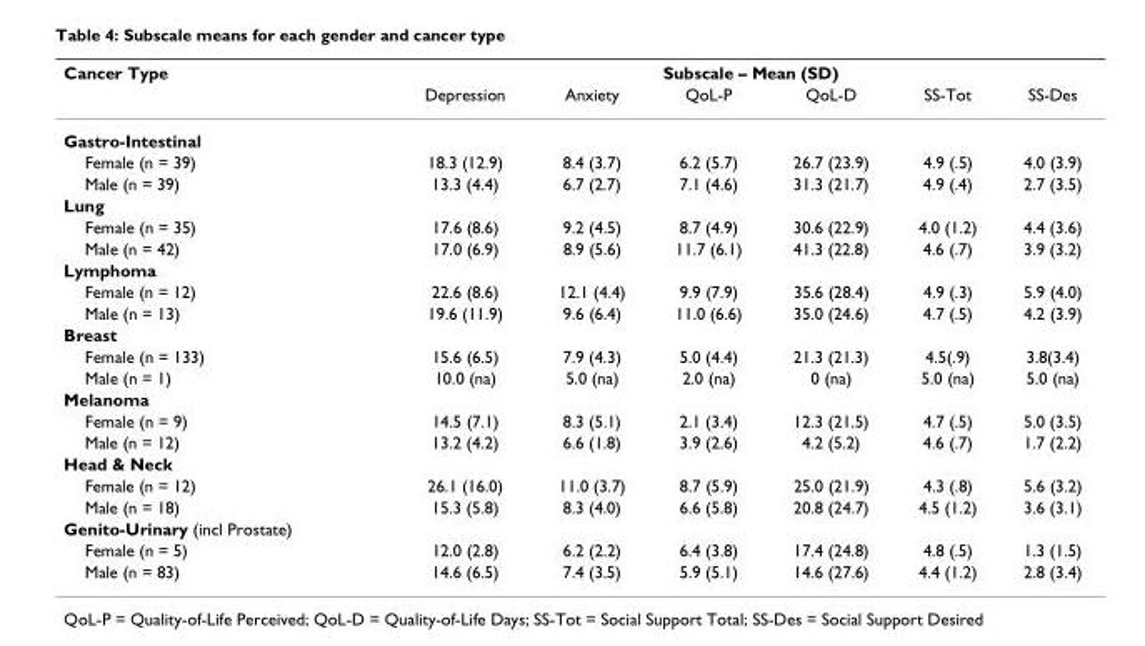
<table><thead><tr><td rowspan="2">Cancer Type</td><td colspan="6">Subscale – Mean (SD)</td></tr><tr><td>Depression</td><td>Anxiety</td><td>QoL-P</td><td>QoL-D</td><td>SS-Tot</td><td>SS-Des</td></tr></thead><tbody><tr><td colspan="7">Gastro-Intestinal</td></tr><tr><td>Female (n = 39)</td><td>18.3 (12.9)</td><td>8.4 (3.7)</td><td>6.2 (5.7)</td><td>26.7 (23.9)</td><td>4.9 (.5)</td><td>4.0 (3.9)</td></tr><tr><td>Male (n = 39)</td><td>13.3 (4.4)</td><td>6.7 (2.7)</td><td>7.1 (4.6)</td><td>31.3 (21.7)</td><td>4.9 (.4)</td><td>2.7 (3.5)</td></tr><tr><td colspan="7">Lung</td></tr><tr><td>Female (n = 35)</td><td>17.6 (8.6)</td><td>9.2 (4.5)</td><td>8.7 (4.9)</td><td>30.6 (22.9)</td><td>4.0 (1.2)</td><td>4.4 (3.6)</td></tr><tr><td>Male (n = 42)</td><td>17.0 (6.9)</td><td>8.9 (5.6)</td><td>11.7 (6.1)</td><td>41.3 (22.8)</td><td>4.6 (.7)</td><td>3.9 (3.2)</td></tr><tr><td colspan="7">Lymphoma</td></tr><tr><td>Female (n = 12)</td><td>22.6 (8.6)</td><td>12.1 (4.4)</td><td>9.9 (7.9)</td><td>35.6 (28.4)</td><td>4.9 (.3)</td><td>5.9 (4.0)</td></tr><tr><td>Male (n = 13)</td><td>19.6 (11.9)</td><td>9.6 (6.4)</td><td>11.0 (6.6)</td><td>35.0 (24.6)</td><td>4.7 (.5)</td><td>4.2 (3.9)</td></tr><tr><td colspan="7">Breast</td></tr><tr><td>Female (n = 133)</td><td>15.6 (6.5)</td><td>7.9 (4.3)</td><td>5.0 (4.4)</td><td>21.3 (21.3)</td><td>4.5(.9)</td><td>3.8(3.4)</td></tr><tr><td>Male (n = 1)</td><td>10.0 (na)</td><td>5.0 (na)</td><td>2.0 (na)</td><td>0 (na)</td><td>5.0 (na)</td><td>5.0 (na)</td></tr><tr><td colspan="7">Melanoma</td></tr><tr><td>Female (n = 9)</td><td>14.5 (7.1)</td><td>8.3 (5.1)</td><td>2.1 (3.4)</td><td>12.3 (21.5)</td><td>4.7 (.5)</td><td>5.0 (3.5)</td></tr><tr><td>Male (n = 12)</td><td>13.2 (4.2)</td><td>6.6 (1.8)</td><td>3.9 (2.6)</td><td>4.2 (5.2)</td><td>4.6 (.7)</td><td>1.7 (2.2)</td></tr><tr><td colspan="7">Head &amp; Neck</td></tr><tr><td>Female (n = 12)</td><td>26.1 (16.0)</td><td>11.0 (3.7)</td><td>8.7 (5.9)</td><td>25.0 (21.9)</td><td>4.3 (.8)</td><td>5.6 (3.2)</td></tr><tr><td>Male (n = 18)</td><td>15.3 (5.8)</td><td>8.3 (4.0)</td><td>6.6 (5.8)</td><td>20.8 (24.7)</td><td>4.5 (1.2)</td><td>3.6 (3.1)</td></tr><tr><td colspan="7">Genito-Urinary (incl Prostate)</td></tr><tr><td>Female (n = 5)</td><td>12.0 (2.8)</td><td>6.2 (2.2)</td><td>6.4 (3.8)</td><td>17.4 (24.8)</td><td>4.8 (.5)</td><td>1.3 (1.5)</td></tr><tr><td>Male (n = 83)</td><td>14.6 (6.5)</td><td>7.4 (3.5)</td><td>5.9 (5.1)</td><td>14.6 (27.6)</td><td>4.4 (1.2)</td><td>2.8 (3.4)</td></tr></tbody></table>